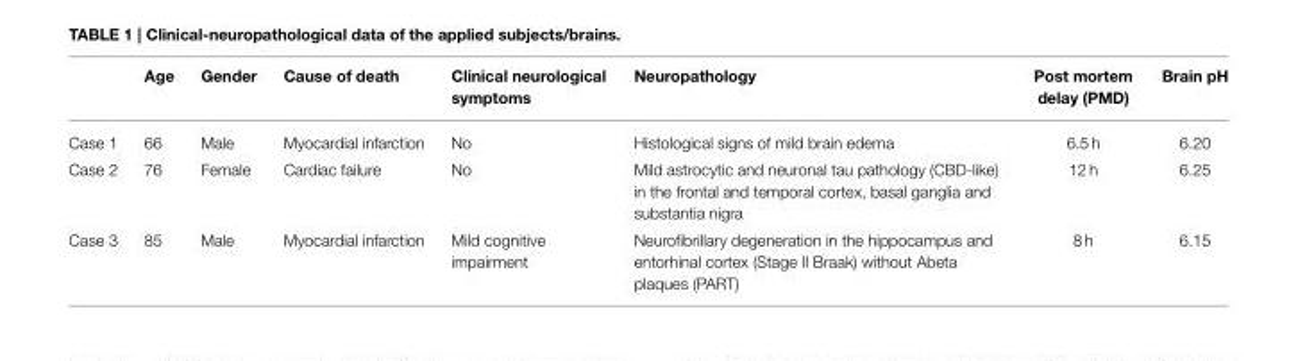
<table><thead><tr><td></td><td>Age</td><td>Gender</td><td>Cause of death</td><td>Clinical neurological symptoms</td><td>Neuropathology</td><td>Post mortem delay (PMD)</td><td>Brain pH</td></tr></thead><tbody><tr><td>Case 1</td><td>66</td><td>Male</td><td>Myocardial infarction</td><td>No</td><td>Histological signs of mild brain edema</td><td>6.5 h</td><td>6.20</td></tr><tr><td>Case 2</td><td>76</td><td>Female</td><td>Cardiac failure</td><td>No</td><td>Mild astrocytic and neuronal tau pathology (CBD-like) in the frontal and temporal cortex, basal ganglia and substantia nigra</td><td>12 h</td><td>6.25</td></tr><tr><td>Case 3</td><td>85</td><td>Male</td><td>Myocardial infarction</td><td>Mild cognitive impairment</td><td>Neurofibrillary degeneration in the hippocampus and entorhinal cortex (Stage II Braak) without Abeta plaques (PART)</td><td>8 h</td><td>6.15</td></tr></tbody></table>